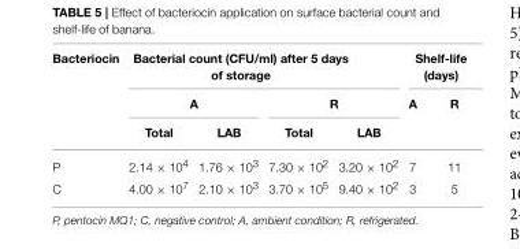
<table><thead><tr><td rowspan="3">Bacteriocin</td><td colspan="4">Bacterial count (CFU/ml) after 5 days of storage</td><td colspan="2">Shelf-life (days)</td></tr><tr><td colspan="2">A</td><td colspan="2">R</td><td rowspan="2">A</td><td rowspan="2">R</td></tr><tr><td>Total</td><td>LAB</td><td>Total</td><td>LAB</td></tr></thead><tbody><tr><td>P</td><td>2.14 × 10<sup>4</sup></td><td>1.76 × 10<sup>3</sup></td><td>7.30 × 10<sup>2</sup></td><td>3.20 × 10<sup>2</sup></td><td>7</td><td>11</td></tr><tr><td>C</td><td>4.00 × 10<sup>7</sup></td><td>2.10 × 10<sup>3</sup></td><td>3.70 × 10<sup>5</sup></td><td>9.40 × 10<sup>2</sup></td><td>3</td><td>5</td></tr></tbody></table>